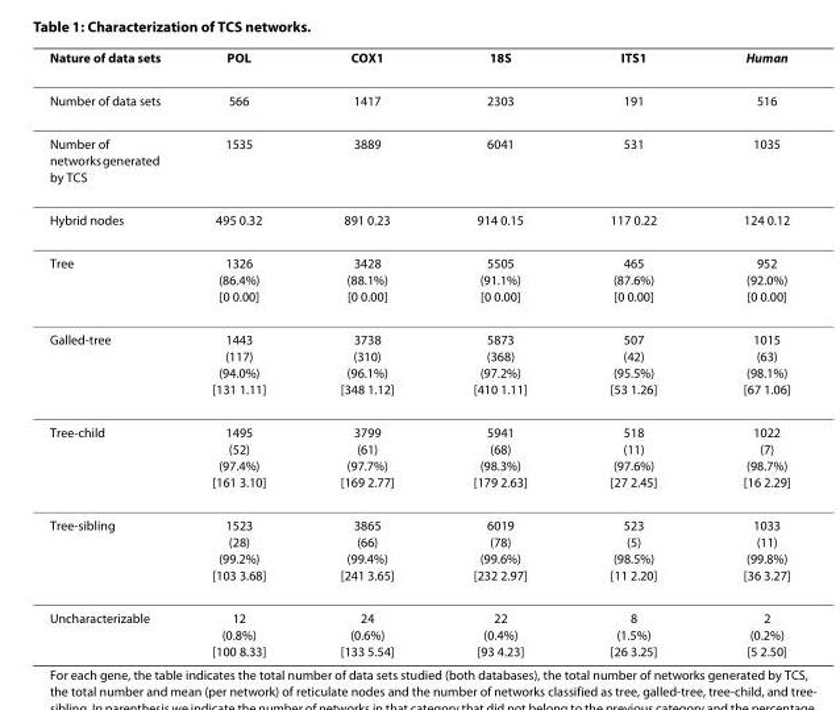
<table><thead><tr><td>Nature of data sets</td><td>POL</td><td>COX1</td><td>18S</td><td>ITS1</td><td>Human</td></tr></thead><tbody><tr><td>Number of data sets</td><td>566</td><td>1417</td><td>2303</td><td>191</td><td>516</td></tr><tr><td>Number of networks generated by TCS</td><td>1535</td><td>3889</td><td>6041</td><td>531</td><td>1035</td></tr><tr><td>Hybrid nodes</td><td>495 0.32</td><td>891 0.23</td><td>914 0.15</td><td>117 0.22</td><td>124 0.12</td></tr><tr><td>Tree</td><td>1326 (86.4%) [0 0.00]</td><td>3428 (88.1%) [0 0.00]</td><td>5505 (91.1%) [0 0.00]</td><td>465 (87.6%) [0 0.00]</td><td>952 (92.0%) [0 0.00]</td></tr><tr><td>Galled-tree</td><td>1443 (117) (94.0%) [131 1.11]</td><td>3738 (310) (96.1%) [348 1.12]</td><td>5873 (368) (97.2%) [410 1.11]</td><td>507 (42) (95.5%) [53 1.26]</td><td>1015 (63) (98.1%) [67 1.06]</td></tr><tr><td>Tree-child</td><td>1495 (52) (97.4%) [161 3.10]</td><td>3799 (61) (97.7%) [169 2.77]</td><td>5941 (68) (98.3%) [179 2.63]</td><td>518 (11) (97.6%) [27 2.45]</td><td>1022 (7) (98.7%) [16 2.29]</td></tr><tr><td>Tree-sibling</td><td>1523 (28) (99.2%) [103 3.68]</td><td>3865 (66) (99.4%) [241 3.65]</td><td>6019 (78) (99.6%) [232 2.97]</td><td>523 (5) (98.5%) [11 2.20]</td><td>1033 (11) (99.8%) [36 3.27]</td></tr><tr><td>Uncharacterizable</td><td>12 (0.8%) [100 8.33]</td><td>24 (0.6%) [133 5.54]</td><td>22 (0.4%) [93 4.23]</td><td>8 (1.5%) [26 3.25]</td><td>2 (0.2%) [5 2.50]</td></tr></tbody></table>